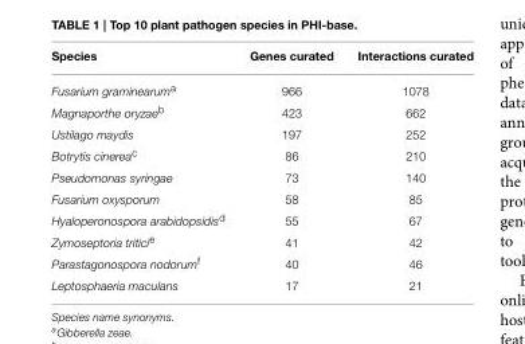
<table><thead><tr><td>Species</td><td>Genes curated</td><td>Interactions curated</td></tr></thead><tbody><tr><td>Fusarium graminearum<sup>a</sup></td><td>966</td><td>1078</td></tr><tr><td>Magnaporthe oryzae<sup>b</sup></td><td>423</td><td>662</td></tr><tr><td>Ustilago maydis</td><td>197</td><td>252</td></tr><tr><td>Botrytis cinerea<sup>c</sup></td><td>86</td><td>210</td></tr><tr><td>Pseudomonas syringae</td><td>73</td><td>140</td></tr><tr><td>Fusarium oxysporum</td><td>58</td><td>85</td></tr><tr><td>Hyaloperonospora arabidopsidis<sup>d</sup></td><td>55</td><td>67</td></tr><tr><td>Zymoseptoria tritici<sup>e</sup></td><td>41</td><td>42</td></tr><tr><td>Parastagonospora nodorum<sup>f</sup></td><td>40</td><td>46</td></tr><tr><td>Leptosphaeria maculans</td><td>17</td><td>21</td></tr></tbody></table>